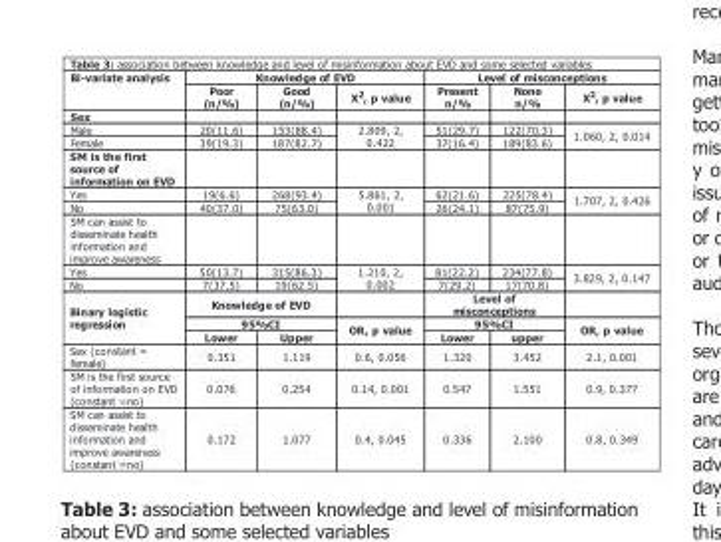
<table><thead><tr><td rowspan="2">Bivariate analysis</td><td colspan="3">Knowledge of EVD</td><td colspan="3">Level of misconceptions</td></tr><tr><td>Poor (n/%)</td><td>Good (n/%)</td><td>X<sup>2</sup>, p value</td><td>Present n/%</td><td>None n/%</td><td>X<sup>2</sup>, p value</td></tr></thead><tbody><tr><td colspan="7">Sex</td></tr><tr><td>Male</td><td>20(11.6)</td><td>153(88.4)</td><td rowspan="2">2.809, 2, 0.422</td><td>51(29.7)</td><td>122(70.3)</td><td rowspan="2">1.060, 2, 0.014</td></tr><tr><td>Female</td><td>39(19.3)</td><td>187(82.7)</td><td>37(16.4)</td><td>189(83.6)</td></tr><tr><td colspan="7">SM is the first source of information on EVD</td></tr><tr><td>Yes</td><td>19(6.6)</td><td>268(93.4)</td><td rowspan="2">5.861, 2, 0.001</td><td>62(21.6)</td><td>225(78.4)</td><td rowspan="2">1.707, 2, 0.426</td></tr><tr><td>No</td><td>40(37.0)</td><td>75(63.0)</td><td>26(24.1)</td><td>87(75.9)</td></tr><tr><td colspan="7">SM can assist to disseminate health information and improve awareness</td></tr><tr><td>Yes</td><td>50(13.7)</td><td>315(86.3)</td><td rowspan="2">1.210, 2, 0.002</td><td>81(22.2)</td><td>234(77.8)</td><td rowspan="2">3.829, 2, 0.147</td></tr><tr><td>No</td><td>7(37.5)</td><td>19(62.5)</td><td>7(29.2)</td><td>17(70.8)</td></tr><tr><td rowspan="3">Binary logistic regression</td><td colspan="2">Knowledge of EVD</td><td></td><td colspan="2">Level of misconceptions</td><td></td></tr><tr><td colspan="2">95%CI</td><td rowspan="2">OR, p value</td><td colspan="2">95%CI</td><td rowspan="2">OR, p value</td></tr><tr><td>Lower</td><td>Upper</td><td>Lower</td><td>upper</td></tr><tr><td>Sex (constant = female)</td><td>0.351</td><td>1.119</td><td>0.6, 0.056</td><td>1.320</td><td>3.452</td><td>2.1, 0.001</td></tr><tr><td>SM is the first source of information on EVD (constant =no)</td><td>0.076</td><td>0.254</td><td>0.14, 0.001</td><td>0.547</td><td>1.551</td><td>0.9, 0.377</td></tr><tr><td>SM can assist to disseminate health information and improve awareness (constant =no)</td><td>0.172</td><td>1.077</td><td>0.4, 0.045</td><td>0.336</td><td>2.100</td><td>0.8, 0.349</td></tr></tbody></table>